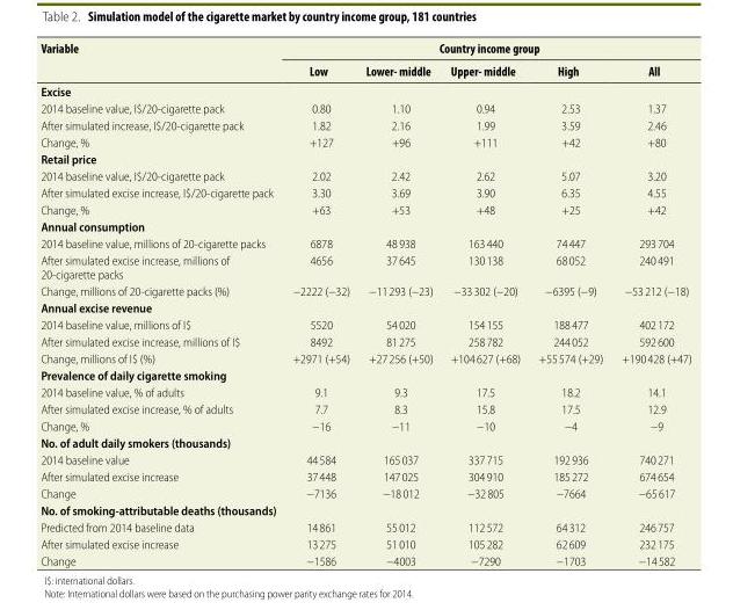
<table><thead><tr><td rowspan="2">Variable</td><td colspan="5">Country income group</td></tr><tr><td>Low</td><td>Lower- middle</td><td>Upper- middle</td><td>High</td><td>All</td></tr></thead><tbody><tr><td colspan="6">Excise</td></tr><tr><td>2014 baseline value, I$/20-cigarette pack</td><td>0.80</td><td>1.10</td><td>0.94</td><td>2.53</td><td>1.37</td></tr><tr><td>After simulated increase, I$/20-cigarette pack</td><td>1.82</td><td>2.16</td><td>1.99</td><td>3.59</td><td>2.46</td></tr><tr><td>Change, %</td><td>+127</td><td>+96</td><td>+111</td><td>+42</td><td>+80</td></tr><tr><td colspan="6">Retail price</td></tr><tr><td>2014 baseline value, I$/20-cigarette pack</td><td>2.02</td><td>2.42</td><td>2.62</td><td>5.07</td><td>3.20</td></tr><tr><td>After simulated excise increase, I$/20-cigarette pack</td><td>3.30</td><td>3.69</td><td>3.90</td><td>6.35</td><td>4.55</td></tr><tr><td>Change, %</td><td>+63</td><td>+53</td><td>+48</td><td>+25</td><td>+42</td></tr><tr><td colspan="6">Annual consumption</td></tr><tr><td>2014 baseline value, millions of 20-cigarette packs</td><td>6878</td><td>48 938</td><td>163 440</td><td>74 447</td><td>293 704</td></tr><tr><td>After simulated excise increase, millions of 20-cigarette packs</td><td>4656</td><td>37 645</td><td>130 138</td><td>68 052</td><td>240 491</td></tr><tr><td>Change, millions of 20-cigarette packs (%)</td><td>−2222 (−32)</td><td>−11 293 (−23)</td><td>−33 302 (−20)</td><td>−6395 (−9)</td><td>−53 212 (−18)</td></tr><tr><td colspan="6">Annual excise revenue</td></tr><tr><td>2014 baseline value, millions of I$</td><td>5520</td><td>54 020</td><td>154 155</td><td>188 477</td><td>402 172</td></tr><tr><td>After simulated excise increase, millions of I$</td><td>8492</td><td>81 275</td><td>258 782</td><td>244 052</td><td>592 600</td></tr><tr><td>Change, millions of I$ (%)</td><td>+2971 (+54)</td><td>+27 256 (+50)</td><td>+104 627 (+68)</td><td>+55 574 (+29)</td><td>+190 428 (+47)</td></tr><tr><td colspan="6">Prevalence of daily cigarette smoking</td></tr><tr><td>2014 baseline value, % of adults</td><td>9.1</td><td>9.3</td><td>17.5</td><td>18.2</td><td>14.1</td></tr><tr><td>After simulated excise increase, % of adults</td><td>7.7</td><td>8.3</td><td>15.8</td><td>17.5</td><td>12.9</td></tr><tr><td>Change, %</td><td>−16</td><td>−11</td><td>−10</td><td>−4</td><td>−9</td></tr><tr><td colspan="6">No. of adult daily smokers (thousands)</td></tr><tr><td>2014 baseline value</td><td>44 584</td><td>165 037</td><td>337 715</td><td>192 936</td><td>740 271</td></tr><tr><td>After simulated excise increase</td><td>37 448</td><td>147 025</td><td>304 910</td><td>185 272</td><td>674 654</td></tr><tr><td>Change</td><td>−7136</td><td>−18 012</td><td>−32 805</td><td>−7664</td><td>−65 617</td></tr><tr><td colspan="6">No. of smoking-attributable deaths (thousands)</td></tr><tr><td>Predicted from 2014 baseline data</td><td>14 861</td><td>55 012</td><td>112 572</td><td>64 312</td><td>246 757</td></tr><tr><td>After simulated excise increase</td><td>13 275</td><td>51 010</td><td>105 282</td><td>62 609</td><td>232 175</td></tr><tr><td>Change</td><td>−1586</td><td>−4003</td><td>−7290</td><td>−1703</td><td>−14 582</td></tr></tbody></table>